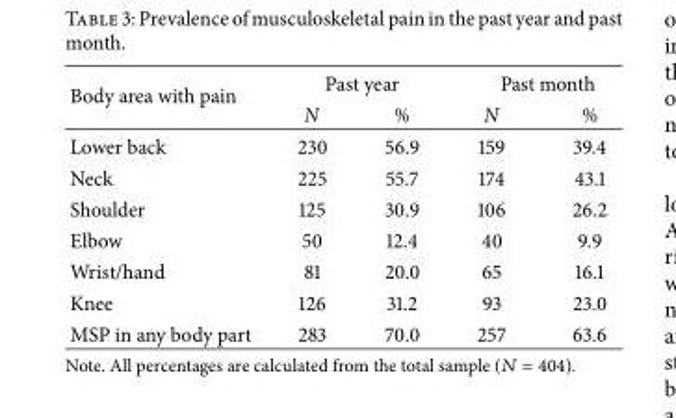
<table><thead><tr><td rowspan="2">Body area with pain</td><td colspan="2">Past year</td><td colspan="2">Past month</td></tr><tr><td>N</td><td>%</td><td>N</td><td>%</td></tr></thead><tbody><tr><td>Lower back</td><td>230</td><td>56.9</td><td>159</td><td>39.4</td></tr><tr><td>Neck</td><td>225</td><td>55.7</td><td>174</td><td>43.1</td></tr><tr><td>Shoulder</td><td>125</td><td>30.9</td><td>106</td><td>26.2</td></tr><tr><td>Elbow</td><td>50</td><td>12.4</td><td>40</td><td>9.9</td></tr><tr><td>Wrist/hand</td><td>81</td><td>20.0</td><td>65</td><td>16.1</td></tr><tr><td>Knee</td><td>126</td><td>31.2</td><td>93</td><td>23.0</td></tr><tr><td>MSP in any body part</td><td>283</td><td>70.0</td><td>257</td><td>63.6</td></tr></tbody></table>